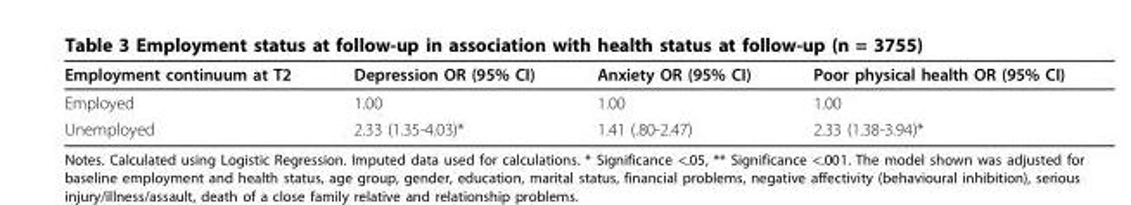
<table><thead><tr><td>Employment continuum at T2</td><td>Depression OR (95% CI)</td><td>Anxiety OR (95% CI)</td><td>Poor physical health OR (95% CI)</td></tr></thead><tbody><tr><td>Employed</td><td>1.00</td><td>1.00</td><td>1.00</td></tr><tr><td>Unemployed</td><td>2.33 (1.35-4.03)*</td><td>1.41 (.80-2.47)</td><td>2.33 (1.38-3.94)*</td></tr></tbody></table>